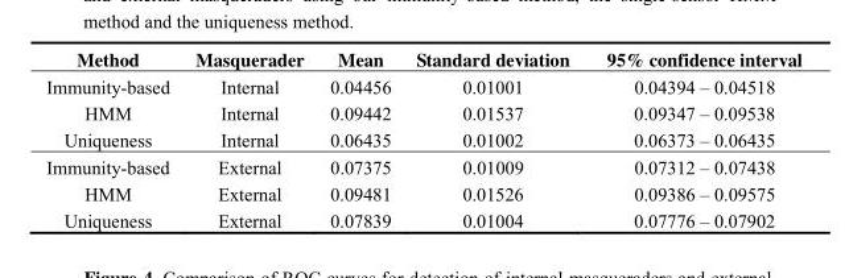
<table><thead><tr><td>Method</td><td>Masquerader</td><td>Mean</td><td>Standard deviation</td><td>95% confidence interval</td></tr></thead><tbody><tr><td>Immunity-based</td><td>Internal</td><td>0.04456</td><td>0.01001</td><td>0.04394 – 0.04518</td></tr><tr><td>HMM</td><td>Internal</td><td>0.09442</td><td>0.01537</td><td>0.09347 – 0.09538</td></tr><tr><td>Uniqueness</td><td>Internal</td><td>0.06435</td><td>0.01002</td><td>0.06373 – 0.06435</td></tr><tr><td>Immunity-based</td><td>External</td><td>0.07375</td><td>0.01009</td><td>0.07312 – 0.07438</td></tr><tr><td>HMM</td><td>External</td><td>0.09481</td><td>0.01526</td><td>0.09386 – 0.09575</td></tr><tr><td>Uniqueness</td><td>External</td><td>0.07839</td><td>0.01004</td><td>0.07776 – 0.07902</td></tr></tbody></table>